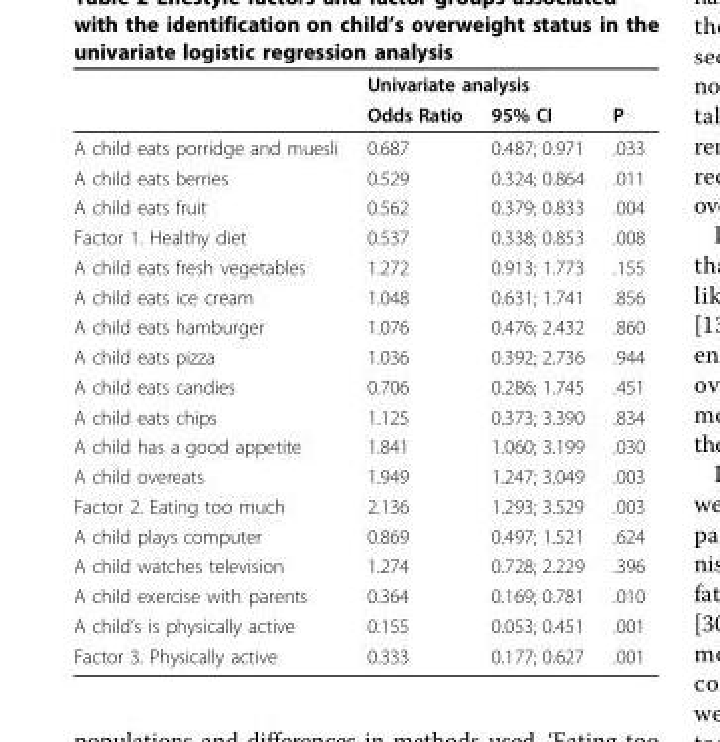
<table><thead><tr><td rowspan="2"></td><td colspan="3">Univariate analysis</td></tr><tr><td>Odds Ratio</td><td>95% CI</td><td>P</td></tr></thead><tbody><tr><td>A child eats porridge and muesli</td><td>0.687</td><td>0.487; 0.971</td><td>.033</td></tr><tr><td>A child eats berries</td><td>0.529</td><td>0.324; 0.864</td><td>.011</td></tr><tr><td>A child eats fruit</td><td>0.562</td><td>0.379; 0.833</td><td>.004</td></tr><tr><td>Factor 1. Healthy diet</td><td>0.537</td><td>0.338; 0.853</td><td>.008</td></tr><tr><td>A child eats fresh vegetables</td><td>1.272</td><td>0.913; 1.773</td><td>.155</td></tr><tr><td>A child eats ice cream</td><td>1.048</td><td>0.631; 1.741</td><td>.856</td></tr><tr><td>A child eats hamburger</td><td>1.076</td><td>0.476; 2.432</td><td>.860</td></tr><tr><td>A child eats pizza</td><td>1.036</td><td>0.392; 2.736</td><td>.944</td></tr><tr><td>A child eats candies</td><td>0.706</td><td>0.286; 1.745</td><td>.451</td></tr><tr><td>A child eats chips</td><td>1.125</td><td>0.373; 3.390</td><td>.834</td></tr><tr><td>A child has a good appetite</td><td>1.841</td><td>1.060; 3.199</td><td>.030</td></tr><tr><td>A child overeats</td><td>1.949</td><td>1.247; 3.049</td><td>.003</td></tr><tr><td>Factor 2. Eating too much</td><td>2.136</td><td>1.293; 3.529</td><td>.003</td></tr><tr><td>A child plays computer</td><td>0.869</td><td>0.497; 1.521</td><td>.624</td></tr><tr><td>A child watches television</td><td>1.274</td><td>0.728; 2.229</td><td>.396</td></tr><tr><td>A child exercise with parents</td><td>0.364</td><td>0.169; 0.781</td><td>.010</td></tr><tr><td>A child’s is physically active</td><td>0.155</td><td>0.053; 0.451</td><td>.001</td></tr><tr><td>Factor 3. Physically active</td><td>0.333</td><td>0.177; 0.627</td><td>.001</td></tr></tbody></table>